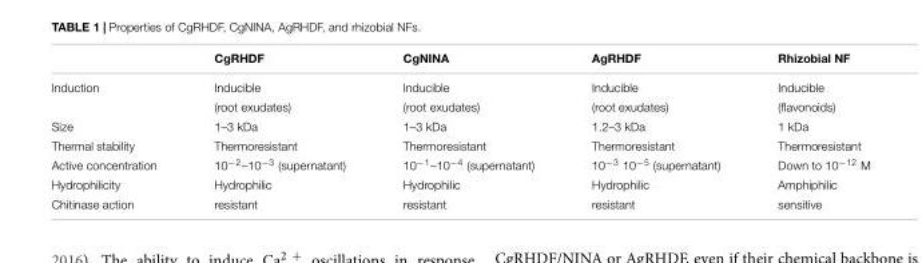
<table><thead><tr><td></td><td>CgRHDF</td><td>CgNINA</td><td>AgRHDF</td><td>Rhizobial NF</td></tr></thead><tbody><tr><td rowspan="2">Induction</td><td>Inducible</td><td>Inducible</td><td>Inducible</td><td>Inducible</td></tr><tr><td>(root exudates)</td><td>(root exudates)</td><td>(root exudates)</td><td>(flavonoids)</td></tr><tr><td>Size</td><td>1–3 kDa</td><td>1–3 kDa</td><td>1.2–3 kDa</td><td>1 kDa</td></tr><tr><td>Thermal stability</td><td>Thermoresistant</td><td>Thermoresistant</td><td>Thermoresistant</td><td>Thermoresistant</td></tr><tr><td>Active concentration</td><td>10<sup>−2</sup>–10<sup>−3</sup> (supernatant)</td><td>10<sup>−1</sup>–10<sup>−4</sup> (supernatant)</td><td>10<sup>−3</sup> 10<sup>−5</sup> (supernatant)</td><td>Down to 10<sup>−12</sup> M</td></tr><tr><td>Hydrophilicity</td><td>Hydrophilic</td><td>Hydrophilic</td><td>Hydrophilic</td><td>Amphiphilic</td></tr><tr><td>Chitinase action</td><td>resistant</td><td>resistant</td><td>resistant</td><td>sensitive</td></tr></tbody></table>